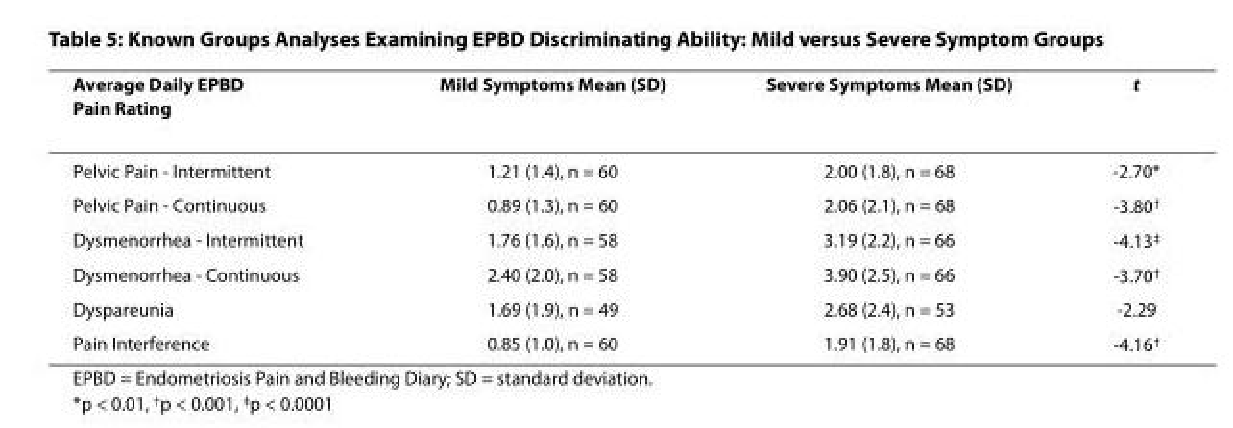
<table><thead><tr><td>Average Daily EPBD Pain Rating</td><td>Mild Symptoms Mean (SD)</td><td>Severe Symptoms Mean (SD)</td><td>t</td></tr></thead><tbody><tr><td>Pelvic Pain - Intermittent</td><td>1.21 (1.4), n = 60</td><td>2.00 (1.8), n = 68</td><td>-2.70*</td></tr><tr><td>Pelvic Pain - Continuous</td><td>0.89 (1.3), n = 60</td><td>2.06 (2.1), n = 68</td><td>-3.80<sup>†</sup></td></tr><tr><td>Dysmenorrhea - Intermittent</td><td>1.76 (1.6), n = 58</td><td>3.19 (2.2), n = 66</td><td>-4.13<sup>‡</sup></td></tr><tr><td>Dysmenorrhea - Continuous</td><td>2.40 (2.0), n = 58</td><td>3.90 (2.5), n = 66</td><td>-3.70<sup>†</sup></td></tr><tr><td>Dyspareunia</td><td>1.69 (1.9), n = 49</td><td>2.68 (2.4), n = 53</td><td>-2.29</td></tr><tr><td>Pain Interference</td><td>0.85 (1.0), n = 60</td><td>1.91 (1.8), n = 68</td><td>-4.16<sup>†</sup></td></tr></tbody></table>